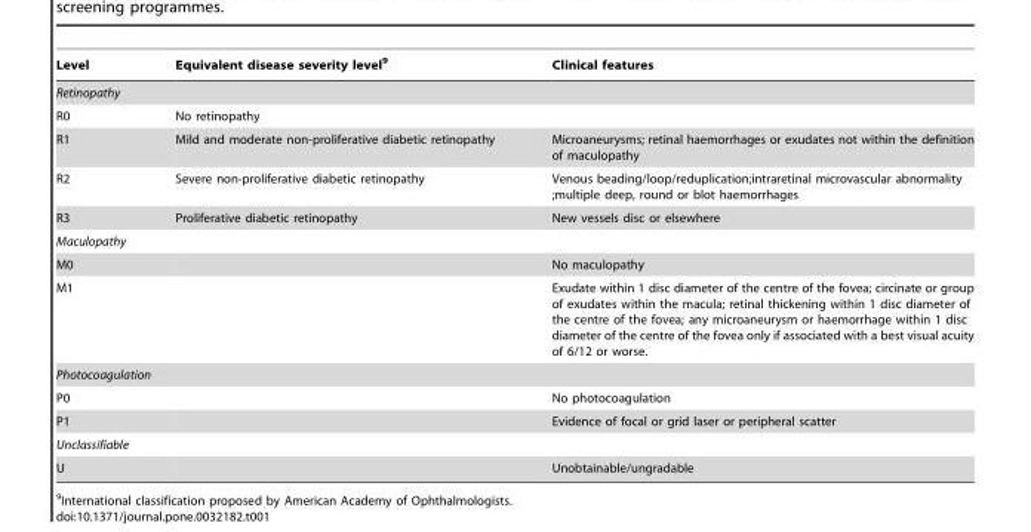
<table><thead><tr><td>Level</td><td>Equivalent disease severity level<sup>9</sup></td><td>Clinical features</td></tr></thead><tbody><tr><td colspan="3">Retinopathy</td></tr><tr><td>R0</td><td>No retinopathy</td><td></td></tr><tr><td>R1</td><td>Mild and moderate non-proliferative diabetic retinopathy</td><td>Microaneurysms; retinal haemorrhages or exudates not within the definition of maculopathy</td></tr><tr><td>R2</td><td>Severe non-proliferative diabetic retinopathy</td><td>Venous beading/loop/reduplication;intraretinal microvascular abnormality ;multiple deep, round or blot haemorrhages</td></tr><tr><td>R3</td><td>Proliferative diabetic retinopathy</td><td>New vessels disc or elsewhere</td></tr><tr><td colspan="3">Maculopathy</td></tr><tr><td>M0</td><td></td><td>No maculopathy</td></tr><tr><td>M1</td><td></td><td>Exudate within 1 disc diameter of the centre of the fovea; circinate or group of exudates within the macula; retinal thickening within 1 disc diameter of the centre of the fovea; any microaneurysm or haemorrhage within 1 disc diameter of the centre of the fovea only if associated with a best visual acuity of 6/12 or worse.</td></tr><tr><td colspan="3">Photocoagulation</td></tr><tr><td>P0</td><td></td><td>No photocoagulation</td></tr><tr><td>P1</td><td></td><td>Evidence of focal or grid laser or peripheral scatter</td></tr><tr><td colspan="3">Unclassifiable</td></tr><tr><td>U</td><td></td><td>Unobtainable/ungradable</td></tr></tbody></table>